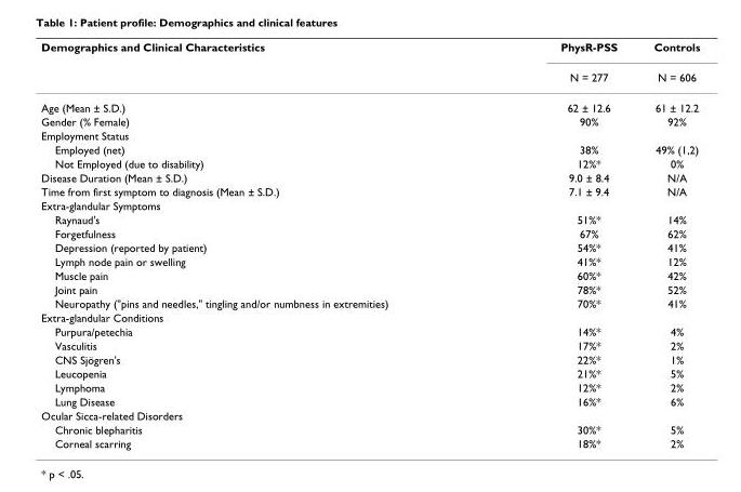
<table><thead><tr><td rowspan="2">Demographics and Clinical Characteristics</td><td rowspan="2">PhysR-PSS N = 277</td><td rowspan="2">Controls N = 606</td></tr><tr></tr></thead><tbody><tr><td>Age (Mean ± S.D.)</td><td>62 ± 12.6</td><td>61 ± 12.2</td></tr><tr><td>Gender (% Female)</td><td>90%</td><td>92%</td></tr><tr><td colspan="3">Employment Status</td></tr><tr><td>Employed (net)</td><td>38%</td><td>49% (1,2)</td></tr><tr><td>Not Employed (due to disability)</td><td>12%*</td><td>0%</td></tr><tr><td>Disease Duration (Mean ± S.D.)</td><td>9.0 ± 8.4</td><td>N/A</td></tr><tr><td>Time from first symptom to diagnosis (Mean ± S.D.)</td><td>7.1 ± 9.4</td><td>N/A</td></tr><tr><td colspan="3">Extra-glandular Symptoms</td></tr><tr><td>Raynaud&#x27;s</td><td>51%*</td><td>14%</td></tr><tr><td>Forgetfulness</td><td>67%</td><td>62%</td></tr><tr><td>Depression (reported by patient)</td><td>54%*</td><td>41%</td></tr><tr><td>Lymph node pain or swelling</td><td>41%*</td><td>12%</td></tr><tr><td>Muscle pain</td><td>60%*</td><td>42%</td></tr><tr><td>Joint pain</td><td>78%*</td><td>52%</td></tr><tr><td>Neuropathy (&quot;pins and needles,&quot; tingling and/or numbness in extremities)</td><td>70%*</td><td>41%</td></tr><tr><td colspan="3">Extra-glandular Conditions</td></tr><tr><td>Purpura/petechia</td><td>14%*</td><td>4%</td></tr><tr><td>Vasculitis</td><td>17%*</td><td>2%</td></tr><tr><td>CNS Sjögren&#x27;s</td><td>22%*</td><td>1%</td></tr><tr><td>Leucopenia</td><td>21%*</td><td>5%</td></tr><tr><td>Lymphoma</td><td>12%*</td><td>2%</td></tr><tr><td>Lung Disease</td><td>16%*</td><td>6%</td></tr><tr><td colspan="3">Ocular Sicca-related Disorders</td></tr><tr><td>Chronic blepharitis</td><td>30%*</td><td>5%</td></tr><tr><td>Corneal scarring</td><td>18%*</td><td>2%</td></tr></tbody></table>